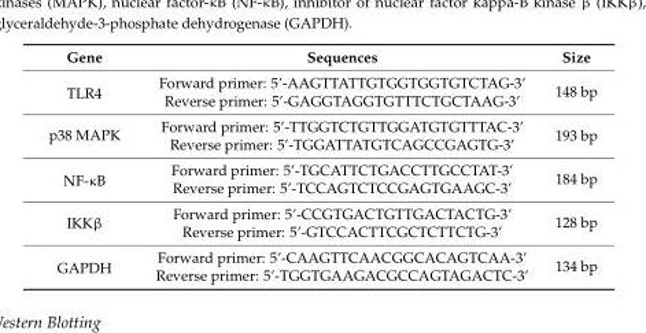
<table><thead><tr><td>Gene</td><td>Sequences</td><td>Size</td></tr></thead><tbody><tr><td rowspan="2">TLR4</td><td>Forward primer: 5’-AAGTTATTGTGGTGGTGTCTAG-3’</td><td rowspan="2">148 bp</td></tr><tr><td>Reverse primer: 5’-GAGGTAGGTGTTTCTGCTAAG-3’</td></tr><tr><td rowspan="2">p38 MAPK</td><td>Forward primer: 5’-TTGGTCTGTTGGATGTGTTTAC-3’</td><td rowspan="2">193 bp</td></tr><tr><td>Reverse primer: 5’-TGGATTATGTCAGCCGAGTG-3’</td></tr><tr><td rowspan="2">NF-κB</td><td>Forward primer: 5’-TGCATTCTGACCTTGCCTAT-3’</td><td rowspan="2">184 bp</td></tr><tr><td>Reverse primer: 5’-TCCAGTCTCCGAGTGAAGC-3’</td></tr><tr><td rowspan="2">IKKβ</td><td>Forward primer: 5’-CCGTGACTGTTGACTACTG-3’</td><td rowspan="2">128 bp</td></tr><tr><td>Reverse primer: 5’-GTCCACTTCGCTCTTCTG-3’</td></tr><tr><td rowspan="2">GAPDH</td><td>Forward primer: 5’-CAAGTTCAACGGCACAGTCAA-3’</td><td rowspan="2">134 bp</td></tr><tr><td>Reverse primer: 5’-TGGTGAAGACGCCAGTAGACTC-3’</td></tr></tbody></table>